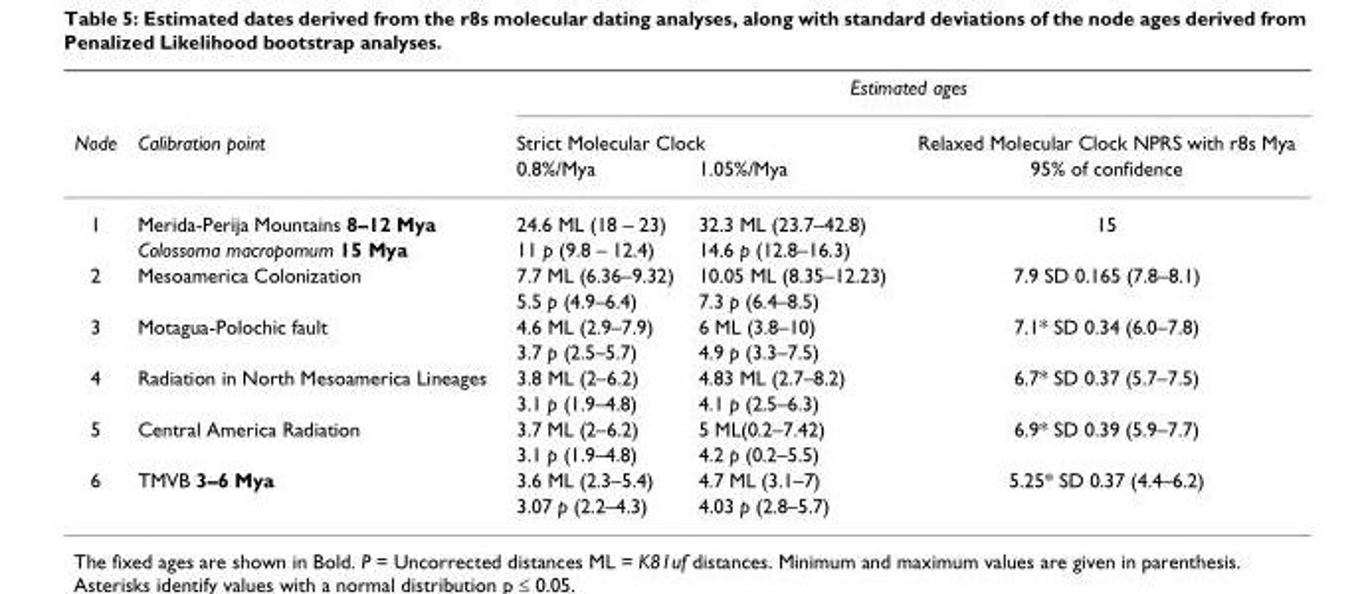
<table><thead><tr><td rowspan="3">Node</td><td rowspan="3">Calibration point</td><td colspan="3">Estimated ages</td></tr><tr><td colspan="2">Strict Molecular Clock</td><td rowspan="2">Relaxed Molecular Clock NPRS with r8s Mya 95% of confidence</td></tr><tr><td>0.8%/Mya</td><td>1.05%/Mya</td></tr></thead><tbody><tr><td rowspan="2">1</td><td>Merida-Perija Mountains 8–12 Mya</td><td>24.6 ML (18 – 23)</td><td>32.3 ML (23.7–42.8)</td><td>15</td></tr><tr><td>Colossoma macropomum 15 Mya</td><td>11 p (9.8 – 12.4)</td><td>14.6 p (12.8–16.3)</td><td></td></tr><tr><td rowspan="2">2</td><td>Mesoamerica Colonization</td><td>7.7 ML (6.36–9.32)</td><td>10.05 ML (8.35–12.23)</td><td>7.9 SD 0.165 (7.8–8.1)</td></tr><tr><td></td><td>5.5 p (4.9–6.4)</td><td>7.3 p (6.4–8.5)</td><td></td></tr><tr><td rowspan="2">3</td><td>Motagua-Polochic fault</td><td>4.6 ML (2.9–7.9)</td><td>6 ML (3.8–10)</td><td>7.1* SD 0.34 (6.0–7.8)</td></tr><tr><td></td><td>3.7 p (2.5–5.7)</td><td>4.9 p (3.3–7.5)</td><td></td></tr><tr><td rowspan="2">4</td><td>Radiation in North Mesoamerica Lineages</td><td>3.8 ML (2–6.2)</td><td>4.83 ML (2.7–8.2)</td><td>6.7* SD 0.37 (5.7–7.5)</td></tr><tr><td></td><td>3.1 p (1.9–4.8)</td><td>4.1 p (2.5–6.3)</td><td></td></tr><tr><td rowspan="2">5</td><td>Central America Radiation</td><td>3.7 ML (2–6.2)</td><td>5 ML(0.2–7.42)</td><td>6.9* SD 0.39 (5.9–7.7)</td></tr><tr><td></td><td>3.1 p (1.9–4.8)</td><td>4.2 p (0.2–5.5)</td><td></td></tr><tr><td rowspan="2">6</td><td>TMVB 3–6 Mya</td><td>3.6 ML (2.3–5.4)</td><td>4.7 ML (3.1–7)</td><td>5.25* SD 0.37 (4.4–6.2)</td></tr><tr><td></td><td>3.07 p (2.2–4.3)</td><td>4.03 p (2.8–5.7)</td><td></td></tr></tbody></table>